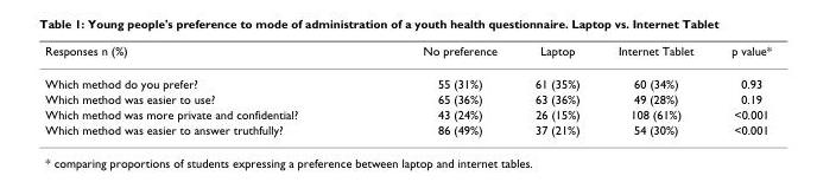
<table><thead><tr><td>Responses n (%)</td><td>No preference</td><td>Laptop</td><td>Internet Tablet</td><td>p value*</td></tr></thead><tbody><tr><td>Which method do you prefer?</td><td>55 (31%)</td><td>61 (35%)</td><td>60 (34%)</td><td>0.93</td></tr><tr><td>Which method was easier to use?</td><td>65 (36%)</td><td>63 (36%)</td><td>49 (28%)</td><td>0.19</td></tr><tr><td>Which method was more private and confidential?</td><td>43 (24%)</td><td>26 (15%)</td><td>108 (61%)</td><td>&lt;0.001</td></tr><tr><td>Which method was easier to answer truthfully?</td><td>86 (49%)</td><td>37 (21%)</td><td>54 (30%)</td><td>&lt;0.001</td></tr></tbody></table>